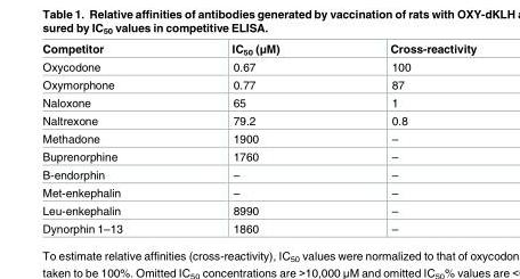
<table><thead><tr><td>Competitor</td><td>IC<sub>50</sub> (μM)</td><td>Cross-reactivity</td></tr></thead><tbody><tr><td>Oxycodone</td><td>0.67</td><td>100</td></tr><tr><td>Oxymorphone</td><td>0.77</td><td>87</td></tr><tr><td>Naloxone</td><td>65</td><td>1</td></tr><tr><td>Naltrexone</td><td>79.2</td><td>0.8</td></tr><tr><td>Methadone</td><td>1900</td><td>–</td></tr><tr><td>Buprenorphine</td><td>1760</td><td>–</td></tr><tr><td>B-endorphin</td><td>–</td><td>–</td></tr><tr><td>Met-enkephalin</td><td>–</td><td>–</td></tr><tr><td>Leu-enkephalin</td><td>8990</td><td>–</td></tr><tr><td>Dynorphin 1–13</td><td>1860</td><td>–</td></tr></tbody></table>